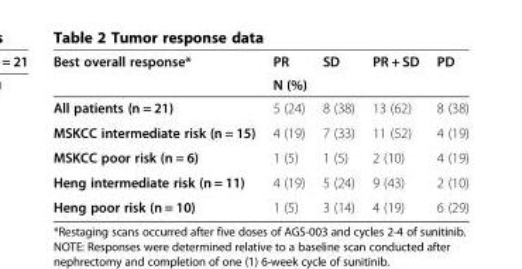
<table><thead><tr><td rowspan="2">Best overall response*</td><td>PR</td><td>SD</td><td>PR + SD</td><td>PD</td></tr><tr><td colspan="4">N (%)</td></tr></thead><tbody><tr><td>All patients (n = 21)</td><td>5 (24)</td><td>8 (38)</td><td>13 (62)</td><td>8 (38)</td></tr><tr><td>MSKCC intermediate risk (n = 15)</td><td>4 (19)</td><td>7 (33)</td><td>11 (52)</td><td>4 (19)</td></tr><tr><td>MSKCC poor risk (n = 6)</td><td>1 (5)</td><td>1 (5)</td><td>2 (10)</td><td>4 (19)</td></tr><tr><td>Heng intermediate risk (n = 11)</td><td>4 (19)</td><td>5 (24)</td><td>9 (43)</td><td>2 (10)</td></tr><tr><td>Heng poor risk (n = 10)</td><td>1 (5)</td><td>3 (14)</td><td>4 (19)</td><td>6 (29)</td></tr></tbody></table>